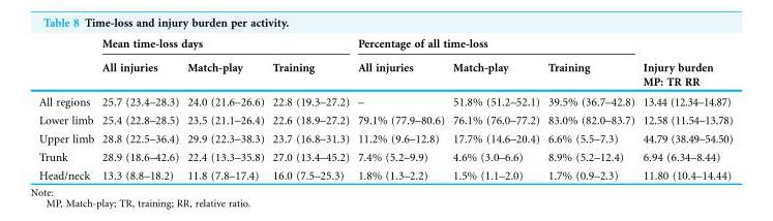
<table><thead><tr><td rowspan="2"></td><td colspan="3">Mean time-loss days</td><td colspan="3">Percentage of all time-loss</td><td rowspan="2">Injury burden MP: TR RR</td></tr><tr><td>All injuries</td><td>Match-play</td><td>Training</td><td>All injuries</td><td>Match-play</td><td>Training</td></tr></thead><tbody><tr><td>All regions</td><td>25.7 (23.4–28.3)</td><td>24.0 (21.6–26.6)</td><td>22.8 (19.3–27.2)</td><td>–</td><td>51.8% (51.2–52.1)</td><td>39.5% (36.7–42.8)</td><td>13.44 (12.34–14.87)</td></tr><tr><td>Lower limb</td><td>25.4 (22.8–28.5)</td><td>23.5 (21.1–26.4)</td><td>22.6 (18.9–27.2)</td><td>79.1% (77.9–80.6)</td><td>76.1% (76.0–77.2)</td><td>83.0% (82.0–83.7)</td><td>12.58 (11.54–13.78)</td></tr><tr><td>Upper limb</td><td>28.8 (22.5–36.4)</td><td>29.9 (22.3–38.3)</td><td>23.7 (16.8–31.3)</td><td>11.2% (9.6–12.8)</td><td>17.7% (14.6–20.4)</td><td>6.6% (5.5–7.3)</td><td>44.79 (38.49–54.50)</td></tr><tr><td>Trunk</td><td>28.9 (18.6–42.6)</td><td>22.4 (13.3–35.8)</td><td>27.0 (13.4–45.2)</td><td>7.4% (5.2–9.9)</td><td>4.6% (3.0–6.6)</td><td>8.9% (5.2–12.4)</td><td>6.94 (6.34–8.44)</td></tr><tr><td>Head/neck</td><td>13.3 (8.8–18.2)</td><td>11.8 (7.8–17.4)</td><td>16.0 (7.5–25.3)</td><td>1.8% (1.3–2.2)</td><td>1.5% (1.1–2.0)</td><td>1.7% (0.9–2.3)</td><td>11.80 (10.4–14.44)</td></tr></tbody></table>